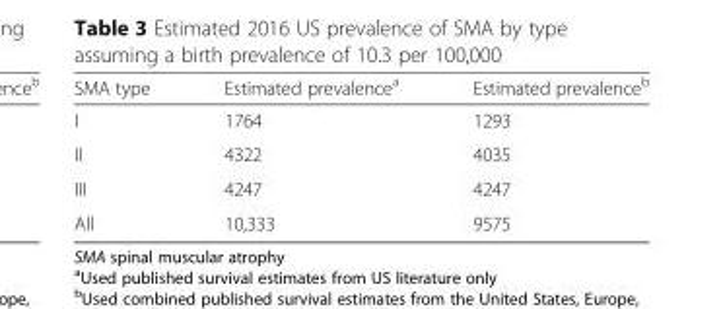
<table><thead><tr><td>SMA type</td><td>Estimated prevalence<sup>a</sup></td><td>Estimated prevalence<sup>b</sup></td></tr></thead><tbody><tr><td>I</td><td>1764</td><td>1293</td></tr><tr><td>II</td><td>4322</td><td>4035</td></tr><tr><td>III</td><td>4247</td><td>4247</td></tr><tr><td>All</td><td>10,333</td><td>9575</td></tr></tbody></table>